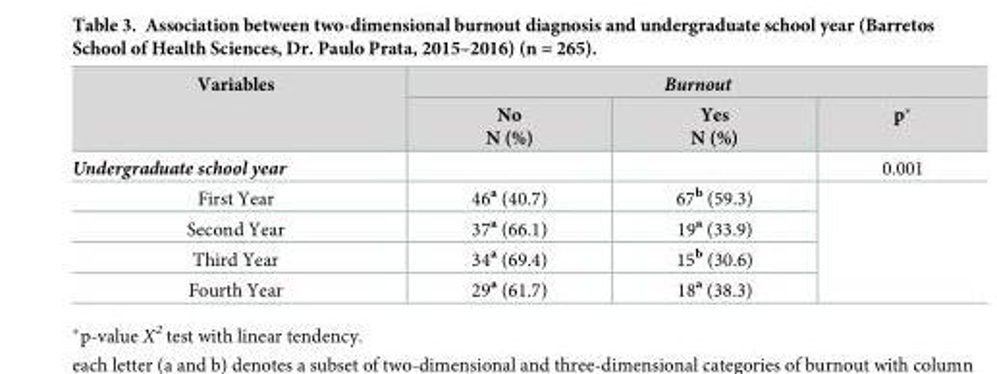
<table><thead><tr><td rowspan="2">Variables</td><td colspan="3">Burnout</td></tr><tr><td>No N (%)</td><td>Yes N (%)</td><td>p*</td></tr></thead><tbody><tr><td>Undergraduate school year</td><td></td><td></td><td>0.001</td></tr><tr><td>First Year</td><td>46<sup>a</sup> (40.7)</td><td>67<sup>b</sup> (59.3)</td><td rowspan="4"></td></tr><tr><td>Second Year</td><td>37<sup>a</sup> (66.1)</td><td>19<sup>a</sup> (33.9)</td></tr><tr><td>Third Year</td><td>34<sup>a</sup> (69.4)</td><td>15<sup>b</sup> (30.6)</td></tr><tr><td>Fourth Year</td><td>29<sup>a</sup> (61.7)</td><td>18<sup>a</sup> (38.3)</td></tr></tbody></table>